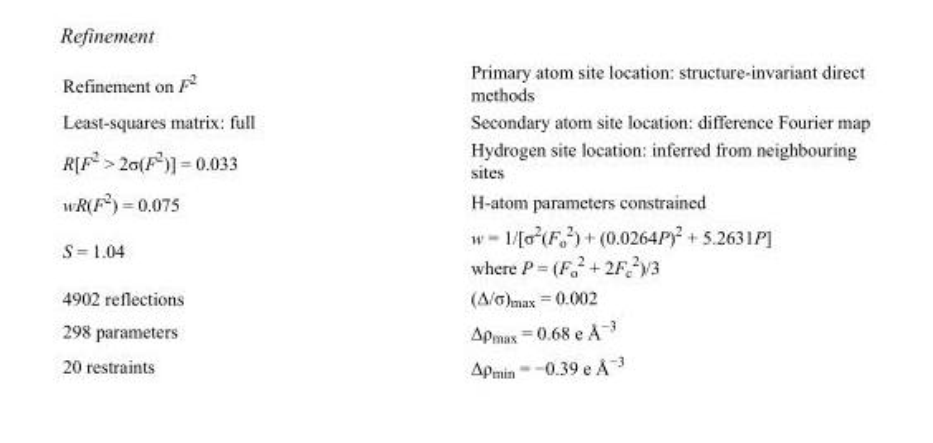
<table><tbody><tr><td>Refinement on F<sup>2</sup></td><td>Primary atom site location: structure-invariant direct methods</td></tr><tr><td>Least-squares matrix: full</td><td>Secondary atom site location: difference Fourier map</td></tr><tr><td>R[F<sup>2</sup> &gt; 2σ(F<sup>2</sup>)] = 0.033</td><td>Hydrogen site location: inferred from neighbouring sites</td></tr><tr><td>wR(F<sup>2</sup>) = 0.075</td><td>H-atom parameters constrained</td></tr><tr><td>S = 1.04</td><td>w = 1/[σ<sup>2</sup>(F<sub>o</sub> <sup>2</sup>) + (0.0264P)<sup>2</sup> + 5.2631P] where P = (F<sub>o</sub> <sup>2</sup> + 2F<sub>c</sub> <sup>2</sup>)/3</td></tr><tr><td>4902 reflections</td><td>(Δ/σ)<sub>max</sub> = 0.002</td></tr><tr><td>298 parameters</td><td>Δρ<sub>max</sub> = 0.68 e Å<sup>−3</sup></td></tr><tr><td>20 restraints</td><td>Δρ<sub>min</sub> = −0.39 e Å<sup>−3</sup></td></tr></tbody></table>